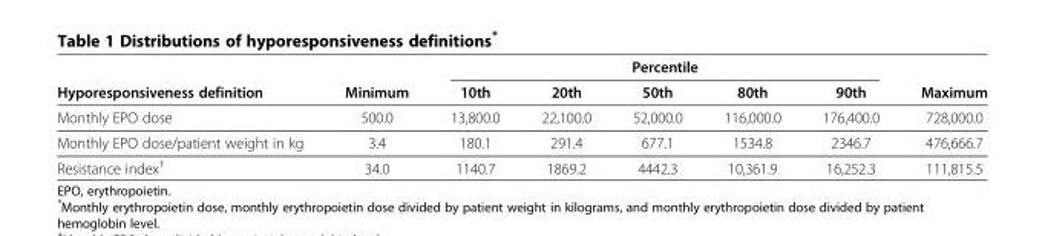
<table><thead><tr><td rowspan="2">Hyporesponsiveness definition</td><td rowspan="2">Minimum</td><td colspan="5">Percentile</td><td rowspan="2">Maximum</td></tr><tr><td>10th</td><td>20th</td><td>50th</td><td>80th</td><td>90th</td></tr></thead><tbody><tr><td>Monthly EPO dose</td><td>500.0</td><td>13,800.0</td><td>22,100.0</td><td>52,000.0</td><td>116,000.0</td><td>176,400.0</td><td>728,000.0</td></tr><tr><td>Monthly EPO dose/patient weight in kg</td><td>3.4</td><td>180.1</td><td>291.4</td><td>677.1</td><td>1534.8</td><td>2346.7</td><td>476,666.7</td></tr><tr><td>Resistance index<sup>†</sup></td><td>34.0</td><td>1140.7</td><td>1869.2</td><td>4442.3</td><td>10,361.9</td><td>16,252.3</td><td>111,815.5</td></tr></tbody></table>